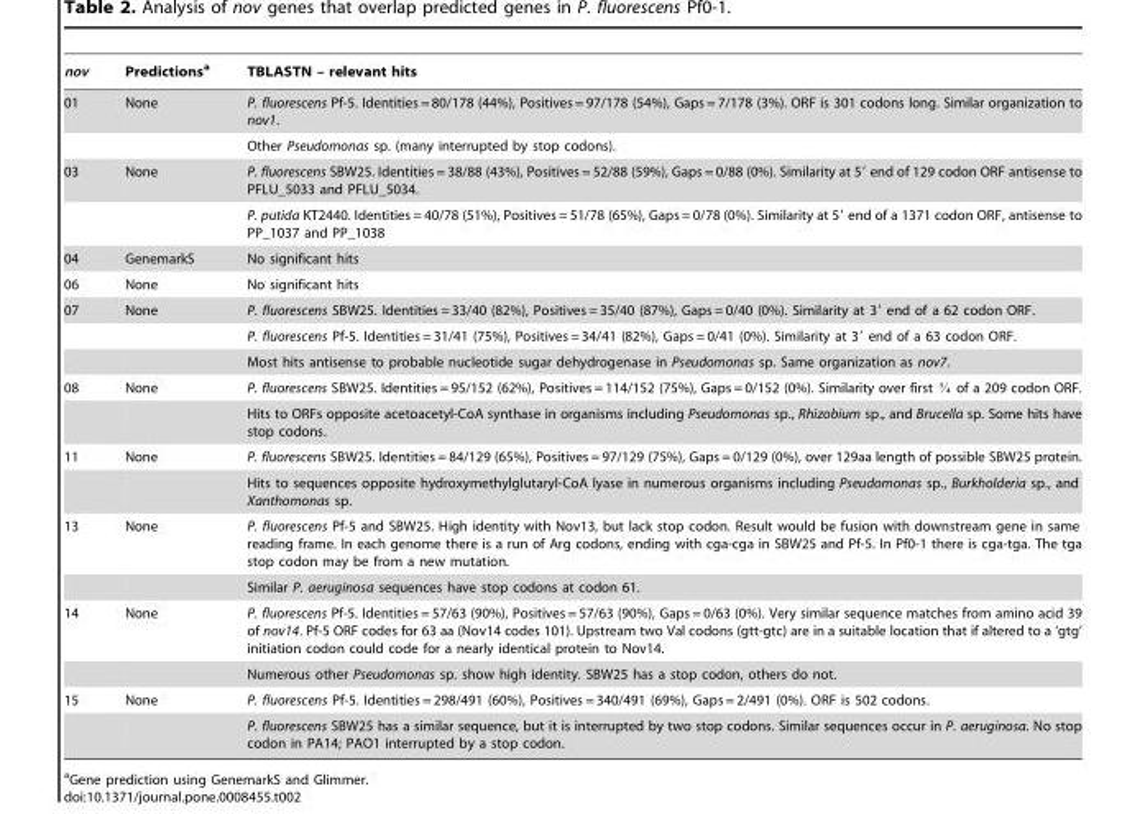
<table><thead><tr><td>nov</td><td>Predictions<sup>a</sup></td><td>TBLASTN – relevant hits</td></tr></thead><tbody><tr><td rowspan="2">01</td><td>None</td><td>P. fluorescens Pf-5. Identities = 80/178 (44%), Positives = 97/178 (54%), Gaps = 7/178 (3%). ORF is 301 codons long. Similar organization to nov1.</td></tr><tr><td></td><td>Other Pseudomonas sp. (many interrupted by stop codons).</td></tr><tr><td rowspan="2">03</td><td>None</td><td>P. fluorescens SBW25. Identities = 38/88 (43%), Positives = 52/88 (59%), Gaps = 0/88 (0%). Similarity at 5′ end of 129 codon ORF antisense to PFLU_5033 and PFLU_5034.</td></tr><tr><td></td><td>P. putida KT2440. Identities = 40/78 (51%), Positives = 51/78 (65%), Gaps = 0/78 (0%). Similarity at 5′ end of a 1371 codon ORF, antisense to PP_1037 and PP_1038</td></tr><tr><td>04</td><td>GenemarkS</td><td>No significant hits</td></tr><tr><td>06</td><td>None</td><td>No significant hits</td></tr><tr><td rowspan="3">07</td><td>None</td><td>P. fluorescens SBW25. Identities = 33/40 (82%), Positives = 35/40 (87%), Gaps = 0/40 (0%). Similarity at 3′ end of a 62 codon ORF.</td></tr><tr><td></td><td>P. fluorescens Pf-5. Identities = 31/41 (75%), Positives = 34/41 (82%), Gaps = 0/41 (0%). Similarity at 3′ end of a 63 codon ORF.</td></tr><tr><td></td><td>Most hits antisense to probable nucleotide sugar dehydrogenase in Pseudomonas sp. Same organization as nov7.</td></tr><tr><td rowspan="2">08</td><td>None</td><td>P. fluorescens SBW25. Identities = 95/152 (62%), Positives = 114/152 (75%), Gaps = 0/152 (0%). Similarity over first L of a 209 codon ORF.</td></tr><tr><td></td><td>Hits to ORFs opposite acetoacetyl-CoA synthase in organisms including Pseudomonas sp., Rhizobium sp., and Brucella sp. Some hits have stop codons.</td></tr><tr><td rowspan="2">11</td><td>None</td><td>P. fluorescens SBW25. Identities = 84/129 (65%), Positives = 97/129 (75%), Gaps = 0/129 (0%), over 129aa length of possible SBW25 protein.</td></tr><tr><td></td><td>Hits to sequences opposite hydroxymethylglutaryl-CoA lyase in numerous organisms including Pseudomonas sp., Burkholderia sp., and Xanthomonas sp.</td></tr><tr><td rowspan="2">13</td><td>None</td><td>P. fluorescens Pf-5 and SBW25. High identity with Nov13, but lack stop codon. Result would be fusion with downstream gene in same reading frame. In each genome there is a run of Arg codons, ending with cga-cga in SBW25 and Pf-5. In Pf0-1 there is cga-tga. The tga stop codon may be from a new mutation.</td></tr><tr><td></td><td>Similar P. aeruginosa sequences have stop codons at codon 61.</td></tr><tr><td rowspan="2">14</td><td>None</td><td>P. fluorescens Pf-5. Identities = 57/63 (90%), Positives = 57/63 (90%), Gaps = 0/63 (0%). Very similar sequence matches from amino acid 39 of nov14. Pf-5 ORF codes for 63 aa (Nov14 codes 101). Upstream two Val codons (gtt-gtc) are in a suitable location that if altered to a ‘gtg’ initiation codon could code for a nearly identical protein to Nov14.</td></tr><tr><td></td><td>Numerous other Pseudomonas sp. show high identity. SBW25 has a stop codon, others do not.</td></tr><tr><td rowspan="2">15</td><td>None</td><td>P. fluorescens Pf-5. Identities = 298/491 (60%), Positives = 340/491 (69%), Gaps = 2/491 (0%). ORF is 502 codons.</td></tr><tr><td></td><td>P. fluorescens SBW25 has a similar sequence, but it is interrupted by two stop codons. Similar sequences occur in P. aeruginosa. No stop codon in PA14; PAO1 interrupted by a stop codon.</td></tr></tbody></table>